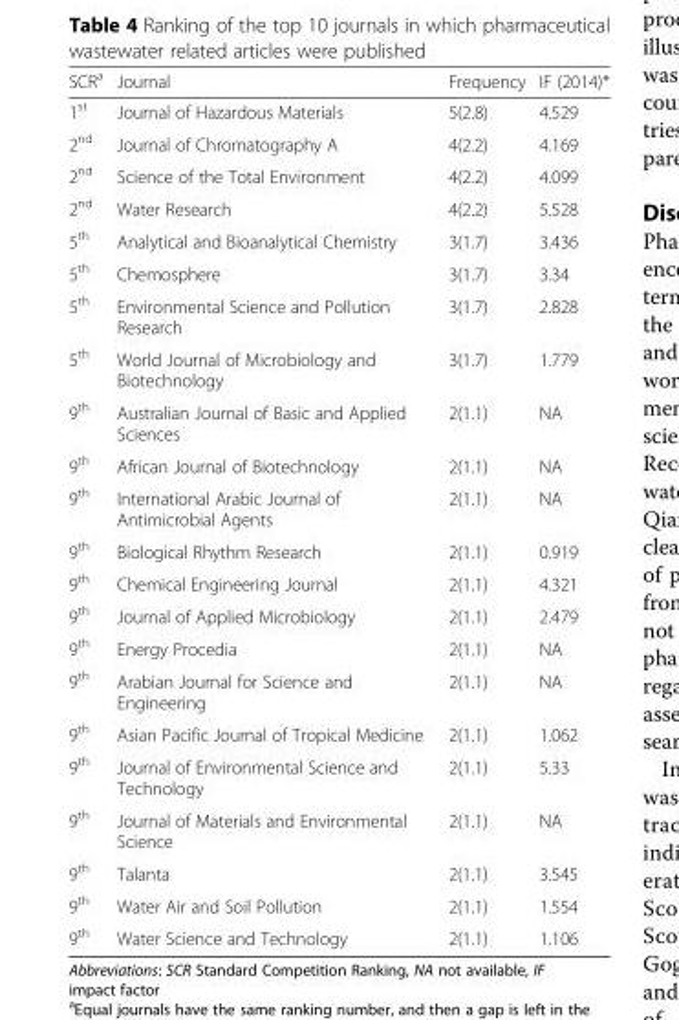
<table><thead><tr><td>SCR<sup>a</sup></td><td>Journal</td><td>Frequency</td><td>IF (2014)*</td></tr></thead><tbody><tr><td>1<sup>st</sup></td><td>Journal of Hazardous Materials</td><td>5(2.8)</td><td>4.529</td></tr><tr><td>2<sup>nd</sup></td><td>Journal of Chromatography A</td><td>4(2.2)</td><td>4.169</td></tr><tr><td>2<sup>nd</sup></td><td>Science of the Total Environment</td><td>4(2.2)</td><td>4.099</td></tr><tr><td>2<sup>nd</sup></td><td>Water Research</td><td>4(2.2)</td><td>5.528</td></tr><tr><td>5<sup>th</sup></td><td>Analytical and Bioanalytical Chemistry</td><td>3(1.7)</td><td>3.436</td></tr><tr><td>5<sup>th</sup></td><td>Chemosphere</td><td>3(1.7)</td><td>3.34</td></tr><tr><td>5<sup>th</sup></td><td>Environmental Science and Pollution Research</td><td>3(1.7)</td><td>2.828</td></tr><tr><td>5<sup>th</sup></td><td>World Journal of Microbiology and Biotechnology</td><td>3(1.7)</td><td>1.779</td></tr><tr><td>9<sup>th</sup></td><td>Australian Journal of Basic and Applied Sciences</td><td>2(1.1)</td><td>NA</td></tr><tr><td>9<sup>th</sup></td><td>African Journal of Biotechnology</td><td>2(1.1)</td><td>NA</td></tr><tr><td>9<sup>th</sup></td><td>International Arabic Journal of Antimicrobial Agents</td><td>2(1.1)</td><td>NA</td></tr><tr><td>9<sup>th</sup></td><td>Biological Rhythm Research</td><td>2(1.1)</td><td>0.919</td></tr><tr><td>9<sup>th</sup></td><td>Chemical Engineering Journal</td><td>2(1.1)</td><td>4.321</td></tr><tr><td>9<sup>th</sup></td><td>Journal of Applied Microbiology</td><td>2(1.1)</td><td>2.479</td></tr><tr><td>9<sup>th</sup></td><td>Energy Procedia</td><td>2(1.1)</td><td>NA</td></tr><tr><td>9<sup>th</sup></td><td>Arabian Journal for Science and Engineering</td><td>2(1.1)</td><td>NA</td></tr><tr><td>9<sup>th</sup></td><td>Asian Pacific Journal of Tropical Medicine</td><td>2(1.1)</td><td>1.062</td></tr><tr><td>9<sup>th</sup></td><td>Journal of Environmental Science and Technology</td><td>2(1.1)</td><td>5.33</td></tr><tr><td>9<sup>th</sup></td><td>Journal of Materials and Environmental Science</td><td>2(1.1)</td><td>NA</td></tr><tr><td>9<sup>th</sup></td><td>Talanta</td><td>2(1.1)</td><td>3.545</td></tr><tr><td>9<sup>th</sup></td><td>Water Air and Soil Pollution</td><td>2(1.1)</td><td>1.554</td></tr><tr><td>9<sup>th</sup></td><td>Water Science and Technology</td><td>2(1.1)</td><td>1.106</td></tr></tbody></table>